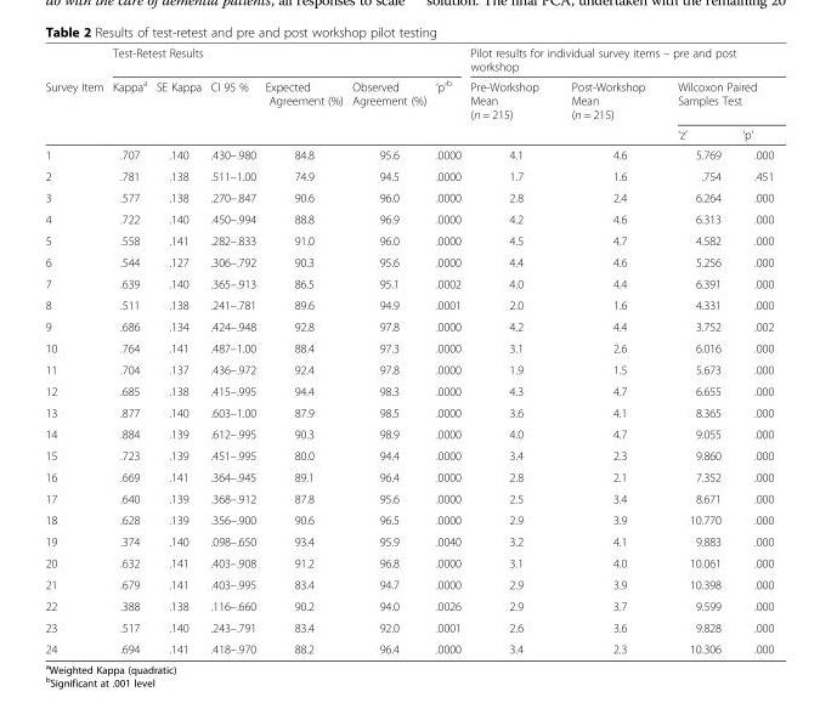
<table><thead><tr><td rowspan="3">Survey Item</td><td colspan="6">Test-Retest Results</td><td colspan="4">Pilot results for individual survey items – pre and post workshop</td></tr><tr><td rowspan="2">Kappa<sup>a</sup></td><td rowspan="2">SE Kappa</td><td rowspan="2">CI 95 %</td><td rowspan="2">Expected Agreement (%)</td><td rowspan="2">Observed Agreement (%)</td><td rowspan="2">‘p’<sup>b</sup></td><td rowspan="2">Pre-Workshop Mean (n = 215)</td><td rowspan="2">Post-Workshop Mean (n = 215)</td><td colspan="2">Wilcoxon Paired Samples Test</td></tr><tr><td>‘z’</td><td>‘p’</td></tr></thead><tbody><tr><td>1</td><td>.707</td><td>.140</td><td>.430–.980</td><td>84.8</td><td>95.6</td><td>.0000</td><td>4.1</td><td>4.6</td><td>5.769</td><td>.000</td></tr><tr><td>2</td><td>.781</td><td>.138</td><td>.511–1.00</td><td>74.9</td><td>94.5</td><td>.0000</td><td>1.7</td><td>1.6</td><td>.754</td><td>.451</td></tr><tr><td>3</td><td>.577</td><td>.138</td><td>.270–.847</td><td>90.6</td><td>96.0</td><td>.0000</td><td>2.8</td><td>2.4</td><td>6.264</td><td>.000</td></tr><tr><td>4</td><td>.722</td><td>.140</td><td>.450–.994</td><td>88.8</td><td>96.9</td><td>.0000</td><td>4.2</td><td>4.6</td><td>6.313</td><td>.000</td></tr><tr><td>5</td><td>.558</td><td>.141</td><td>.282–.833</td><td>91.0</td><td>96.0</td><td>.0000</td><td>4.5</td><td>4.7</td><td>4.582</td><td>.000</td></tr><tr><td>6</td><td>.544</td><td>.127</td><td>.306–.792</td><td>90.3</td><td>95.6</td><td>.0000</td><td>4.4</td><td>4.6</td><td>5.256</td><td>.000</td></tr><tr><td>7</td><td>.639</td><td>.140</td><td>.365–.913</td><td>86.5</td><td>95.1</td><td>.0002</td><td>4.0</td><td>4.4</td><td>6.391</td><td>.000</td></tr><tr><td>8</td><td>.511</td><td>.138</td><td>.241–.781</td><td>89.6</td><td>94.9</td><td>.0001</td><td>2.0</td><td>1.6</td><td>4.331</td><td>.000</td></tr><tr><td>9</td><td>.686</td><td>.134</td><td>.424–.948</td><td>92.8</td><td>97.8</td><td>.0000</td><td>4.2</td><td>4.4</td><td>3.752</td><td>.002</td></tr><tr><td>10</td><td>.764</td><td>.141</td><td>.487–1.00</td><td>88.4</td><td>97.3</td><td>.0000</td><td>3.1</td><td>2.6</td><td>6.016</td><td>.000</td></tr><tr><td>11</td><td>.704</td><td>.137</td><td>.436–.972</td><td>92.4</td><td>97.8</td><td>.0000</td><td>1.9</td><td>1.5</td><td>5.673</td><td>.000</td></tr><tr><td>12</td><td>.685</td><td>.138</td><td>.415–.995</td><td>94.4</td><td>98.3</td><td>.0000</td><td>4.3</td><td>4.7</td><td>6.655</td><td>.000</td></tr><tr><td>13</td><td>.877</td><td>.140</td><td>.603–1.00</td><td>87.9</td><td>98.5</td><td>.0000</td><td>3.6</td><td>4.1</td><td>8.365</td><td>.000</td></tr><tr><td>14</td><td>.884</td><td>.139</td><td>.612–.995</td><td>90.3</td><td>98.9</td><td>.0000</td><td>4.0</td><td>4.7</td><td>9.055</td><td>.000</td></tr><tr><td>15</td><td>.723</td><td>.139</td><td>.451–.995</td><td>80.0</td><td>94.4</td><td>.0000</td><td>3.4</td><td>2.3</td><td>9.860</td><td>.000</td></tr><tr><td>16</td><td>.669</td><td>.141</td><td>.364–.945</td><td>89.1</td><td>96.4</td><td>.0000</td><td>2.8</td><td>2.1</td><td>7.352</td><td>.000</td></tr><tr><td>17</td><td>.640</td><td>.139</td><td>.368–.912</td><td>87.8</td><td>95.6</td><td>.0000</td><td>2.5</td><td>3.4</td><td>8.671</td><td>.000</td></tr><tr><td>18</td><td>.628</td><td>.139</td><td>.356–.900</td><td>90.6</td><td>96.5</td><td>.0000</td><td>2.9</td><td>3.9</td><td>10.770</td><td>.000</td></tr><tr><td>19</td><td>.374</td><td>.140</td><td>.098–.650</td><td>93.4</td><td>95.9</td><td>.0040</td><td>3.2</td><td>4.1</td><td>9.883</td><td>.000</td></tr><tr><td>20</td><td>.632</td><td>.141</td><td>.403–.908</td><td>91.2</td><td>96.8</td><td>.0000</td><td>3.1</td><td>4.0</td><td>10.061</td><td>.000</td></tr><tr><td>21</td><td>.679</td><td>.141</td><td>.403–.995</td><td>83.4</td><td>94.7</td><td>.0000</td><td>2.9</td><td>3.9</td><td>10.398</td><td>.000</td></tr><tr><td>22</td><td>.388</td><td>.138</td><td>.116–.660</td><td>90.2</td><td>94.0</td><td>.0026</td><td>2.9</td><td>3.7</td><td>9.599</td><td>.000</td></tr><tr><td>23</td><td>.517</td><td>.140</td><td>.243–.791</td><td>83.4</td><td>92.0</td><td>.0001</td><td>2.6</td><td>3.6</td><td>9.828</td><td>.000</td></tr><tr><td>24</td><td>.694</td><td>.141</td><td>.418–.970</td><td>88.2</td><td>96.4</td><td>.0000</td><td>3.4</td><td>2.3</td><td>10.306</td><td>.000</td></tr></tbody></table>